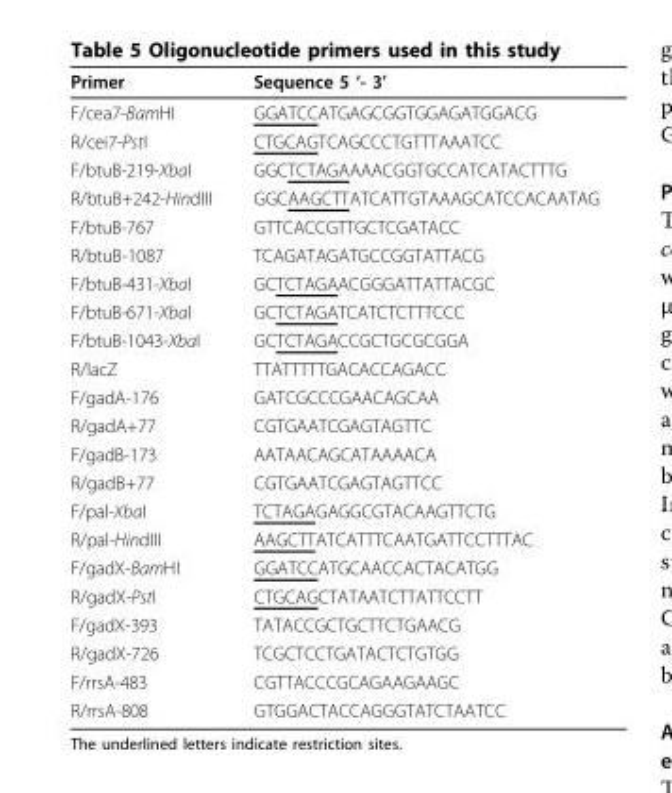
<table><thead><tr><td>Primer</td><td>Sequence 5 ‘- 3’</td></tr></thead><tbody><tr><td>F/cea7-BamHI</td><td>GGATCCATGAGCGGTGGAGATGGACG</td></tr><tr><td>R/cei7-PstI</td><td>CTGCAGTCAGCCCTGTTTAAATCC</td></tr><tr><td>F/btuB-219-XbaI</td><td>GGCTCTAGAAAACGGTGCCATCATACTTTG</td></tr><tr><td>R/btuB+242-HindIII</td><td>GGCAAGCTTATCATTGTAAAGCATCCACAATAG</td></tr><tr><td>F/btuB-767</td><td>GTTCACCGTTGCTCGATACC</td></tr><tr><td>R/btuB-1087</td><td>TCAGATAGATGCCGGTATTACG</td></tr><tr><td>F/btuB-431-XbaI</td><td>GCTCTAGAACGGGATTATTACGC</td></tr><tr><td>F/btuB-671-XbaI</td><td>GCTCTAGATCATCTCTTTCCC</td></tr><tr><td>F/btuB-1043-XbaI</td><td>GCTCTAGACCGCTGCGCGGA</td></tr><tr><td>R/lacZ</td><td>TTATTTTTGACACCAGACC</td></tr><tr><td>F/gadA-176</td><td>GATCGCCCGAACAGCAA</td></tr><tr><td>R/gadA+77</td><td>CGTGAATCGAGTAGTTC</td></tr><tr><td>F/gadB-173</td><td>AATAACAGCATAAAACA</td></tr><tr><td>R/gadB+77</td><td>CGTGAATCGAGTAGTTCC</td></tr><tr><td>F/pal-XbaI</td><td>TCTAGAGAGGCGTACAAGTTCTG</td></tr><tr><td>R/pal-HindIII</td><td>AAGCTTATCATTTCAATGATTCCTTTAC</td></tr><tr><td>F/gadX-BamHI</td><td>GGATCCATGCAACCACTACATGG</td></tr><tr><td>R/gadX-PstI</td><td>CTGCAGCTATAATCTTATTCCTT</td></tr><tr><td>F/gadX-393</td><td>TATACCGCTGCTTCTGAACG</td></tr><tr><td>R/gadX-726</td><td>TCGCTCCTGATACTCTGTGG</td></tr><tr><td>F/rrsA-483</td><td>CGTTACCCGCAGAAGAAGC</td></tr><tr><td>R/rrsA-808</td><td>GTGGACTACCAGGGTATCTAATCC</td></tr></tbody></table>